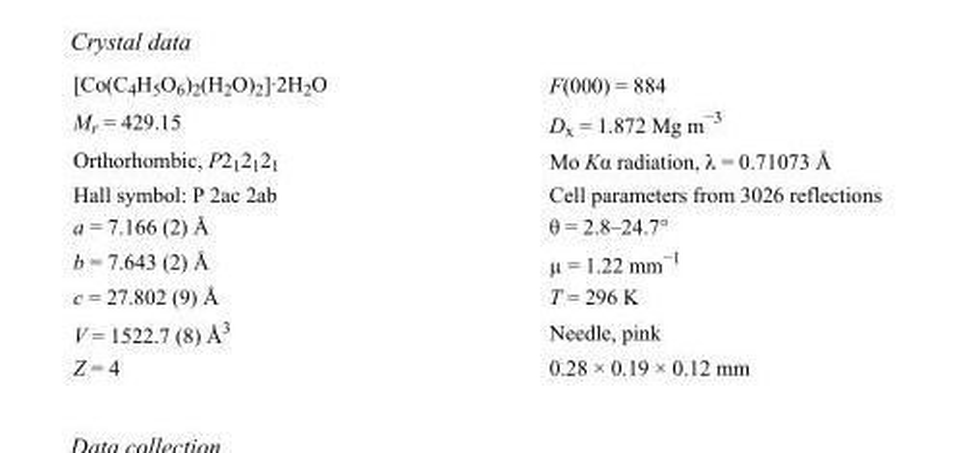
<table><tbody><tr><td>[Co(C<sub>4</sub>H<sub>5</sub>O<sub>6</sub>)<sub>2</sub>(H<sub>2</sub>O)<sub>2</sub>]·2H<sub>2</sub>O</td><td>F(000) = 884</td></tr><tr><td>M<sub>r</sub> = 429.15</td><td>D<sub>x</sub> = 1.872 Mg m<sup>−3</sup></td></tr><tr><td>Orthorhombic, P2<sub>1</sub>2<sub>1</sub>2<sub>1</sub></td><td>Mo Kα radiation, λ = 0.71073 Å</td></tr><tr><td>Hall symbol: P 2ac 2ab</td><td>Cell parameters from 3026 reflections</td></tr><tr><td>a = 7.166 (2) Å</td><td>θ = 2.8–24.7°</td></tr><tr><td>b = 7.643 (2) Å</td><td>µ = 1.22 mm<sup>−1</sup></td></tr><tr><td>c = 27.802 (9) Å</td><td>T = 296 K</td></tr><tr><td>V = 1522.7 (8) Å<sup>3</sup></td><td>Needle, pink</td></tr><tr><td>Z = 4</td><td>0.28 × 0.19 × 0.12 mm</td></tr></tbody></table>